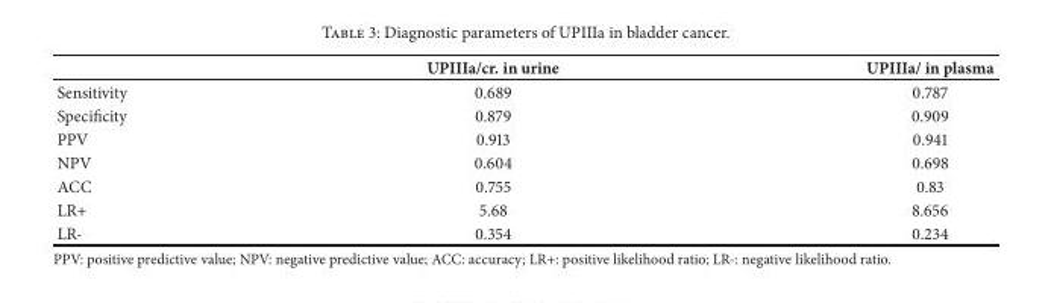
<table><thead><tr><td></td><td>UPIIIa/cr. in urine</td><td>UPIIIa/ in plasma</td></tr></thead><tbody><tr><td>Sensitivity</td><td>0.689</td><td>0.787</td></tr><tr><td>Specificity</td><td>0.879</td><td>0.909</td></tr><tr><td>PPV</td><td>0.913</td><td>0.941</td></tr><tr><td>NPV</td><td>0.604</td><td>0.698</td></tr><tr><td>ACC</td><td>0.755</td><td>0.83</td></tr><tr><td>LR+</td><td>5.68</td><td>8.656</td></tr><tr><td>LR-</td><td>0.354</td><td>0.234</td></tr></tbody></table>